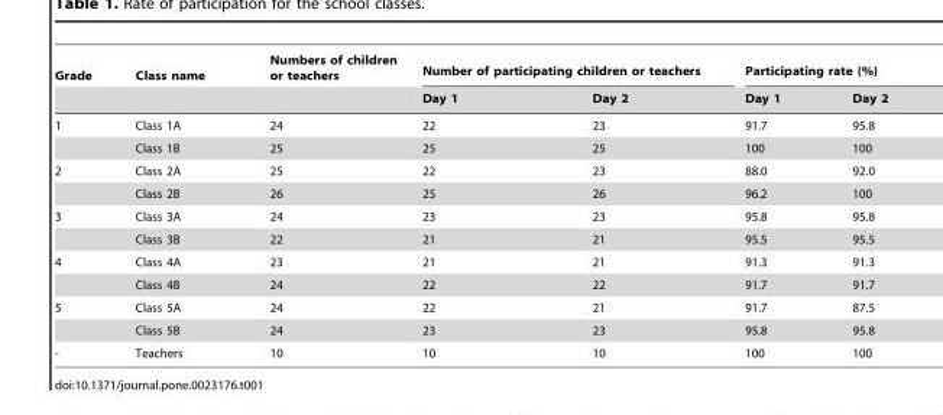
<table><thead><tr><td rowspan="2">Grade</td><td rowspan="2">Class name</td><td rowspan="2">Numbers of children or teachers</td><td colspan="2">Number of participating children or teachers</td><td colspan="2">Participating rate (%)</td></tr><tr><td>Day 1</td><td>Day 2</td><td>Day 1</td><td>Day 2</td></tr></thead><tbody><tr><td rowspan="2">1</td><td>Class 1A</td><td>24</td><td>22</td><td>23</td><td>91.7</td><td>95.8</td></tr><tr><td>Class 1B</td><td>25</td><td>25</td><td>25</td><td>100</td><td>100</td></tr><tr><td rowspan="2">2</td><td>Class 2A</td><td>25</td><td>22</td><td>23</td><td>88.0</td><td>92.0</td></tr><tr><td>Class 2B</td><td>26</td><td>25</td><td>26</td><td>96.2</td><td>100</td></tr><tr><td rowspan="2">3</td><td>Class 3A</td><td>24</td><td>23</td><td>23</td><td>95.8</td><td>95.8</td></tr><tr><td>Class 3B</td><td>22</td><td>21</td><td>21</td><td>95.5</td><td>95.5</td></tr><tr><td rowspan="2">4</td><td>Class 4A</td><td>23</td><td>21</td><td>21</td><td>91.3</td><td>91.3</td></tr><tr><td>Class 4B</td><td>24</td><td>22</td><td>22</td><td>91.7</td><td>91.7</td></tr><tr><td rowspan="2">5</td><td>Class 5A</td><td>24</td><td>22</td><td>21</td><td>91.7</td><td>87.5</td></tr><tr><td>Class 5B</td><td>24</td><td>23</td><td>23</td><td>95.8</td><td>95.8</td></tr><tr><td>-</td><td>Teachers</td><td>10</td><td>10</td><td>10</td><td>100</td><td>100</td></tr></tbody></table>